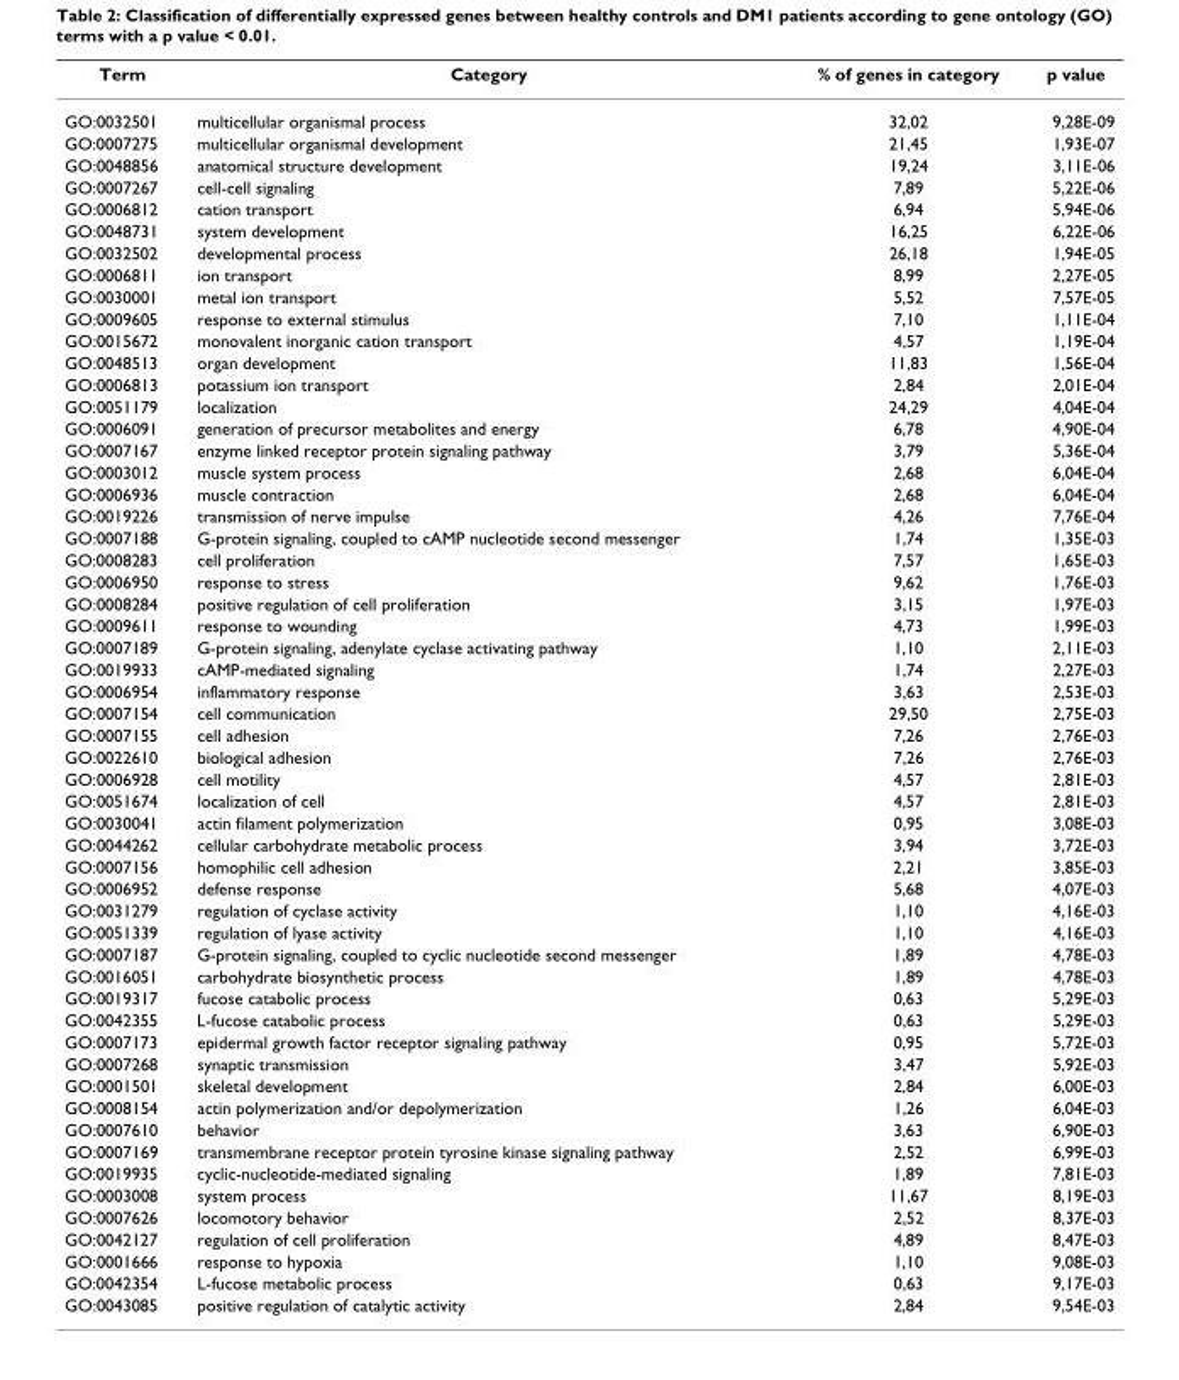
<table><thead><tr><td>Term</td><td>Category</td><td>% of genes in category</td><td>p value</td></tr></thead><tbody><tr><td>GO:0032501</td><td>multicellular organismal process</td><td>32,02</td><td>9,28E-09</td></tr><tr><td>GO:0007275</td><td>multicellular organismal development</td><td>21,45</td><td>1,93E-07</td></tr><tr><td>GO:0048856</td><td>anatomical structure development</td><td>19,24</td><td>3,11E-06</td></tr><tr><td>GO:0007267</td><td>cell-cell signaling</td><td>7,89</td><td>5,22E-06</td></tr><tr><td>GO:0006812</td><td>cation transport</td><td>6,94</td><td>5,94E-06</td></tr><tr><td>GO:0048731</td><td>system development</td><td>16,25</td><td>6,22E-06</td></tr><tr><td>GO:0032502</td><td>developmental process</td><td>26,18</td><td>1,94E-05</td></tr><tr><td>GO:0006811</td><td>ion transport</td><td>8,99</td><td>2,27E-05</td></tr><tr><td>GO:0030001</td><td>metal ion transport</td><td>5,52</td><td>7,57E-05</td></tr><tr><td>GO:0009605</td><td>response to external stimulus</td><td>7,10</td><td>1,11E-04</td></tr><tr><td>GO:0015672</td><td>monovalent inorganic cation transport</td><td>4,57</td><td>1,19E-04</td></tr><tr><td>GO:0048513</td><td>organ development</td><td>11,83</td><td>1,56E-04</td></tr><tr><td>GO:0006813</td><td>potassium ion transport</td><td>2,84</td><td>2,01E-04</td></tr><tr><td>GO:0051179</td><td>localization</td><td>24,29</td><td>4,04E-04</td></tr><tr><td>GO:0006091</td><td>generation of precursor metabolites and energy</td><td>6,78</td><td>4,90E-04</td></tr><tr><td>GO:0007167</td><td>enzyme linked receptor protein signaling pathway</td><td>3,79</td><td>5,36E-04</td></tr><tr><td>GO:0003012</td><td>muscle system process</td><td>2,68</td><td>6,04E-04</td></tr><tr><td>GO:0006936</td><td>muscle contraction</td><td>2,68</td><td>6,04E-04</td></tr><tr><td>GO:0019226</td><td>transmission of nerve impulse</td><td>4,26</td><td>7,76E-04</td></tr><tr><td>GO:0007188</td><td>G-protein signaling, coupled to cAMP nucleotide second messenger</td><td>1,74</td><td>1,35E-03</td></tr><tr><td>GO:0008283</td><td>cell proliferation</td><td>7,57</td><td>1,65E-03</td></tr><tr><td>GO:0006950</td><td>response to stress</td><td>9,62</td><td>1,76E-03</td></tr><tr><td>GO:0008284</td><td>positive regulation of cell proliferation</td><td>3,15</td><td>1,97E-03</td></tr><tr><td>GO:0009611</td><td>response to wounding</td><td>4,73</td><td>1,99E-03</td></tr><tr><td>GO:0007189</td><td>G-protein signaling, adenylate cyclase activating pathway</td><td>1,10</td><td>2,11E-03</td></tr><tr><td>GO:0019933</td><td>cAMP-mediated signaling</td><td>1,74</td><td>2,27E-03</td></tr><tr><td>GO:0006954</td><td>inflammatory response</td><td>3,63</td><td>2,53E-03</td></tr><tr><td>GO:0007154</td><td>cell communication</td><td>29,50</td><td>2,75E-03</td></tr><tr><td>GO:0007155</td><td>cell adhesion</td><td>7,26</td><td>2,76E-03</td></tr><tr><td>GO:0022610</td><td>biological adhesion</td><td>7,26</td><td>2,76E-03</td></tr><tr><td>GO:0006928</td><td>cell motility</td><td>4,57</td><td>2,81E-03</td></tr><tr><td>GO:0051674</td><td>localization of cell</td><td>4,57</td><td>2,81E-03</td></tr><tr><td>GO:0030041</td><td>actin filament polymerization</td><td>0,95</td><td>3,08E-03</td></tr><tr><td>GO:0044262</td><td>cellular carbohydrate metabolic process</td><td>3,94</td><td>3,72E-03</td></tr><tr><td>GO:0007156</td><td>homophilic cell adhesion</td><td>2,21</td><td>3,85E-03</td></tr><tr><td>GO:0006952</td><td>defense response</td><td>5,68</td><td>4,07E-03</td></tr><tr><td>GO:0031279</td><td>regulation of cyclase activity</td><td>1,10</td><td>4,16E-03</td></tr><tr><td>GO:0051339</td><td>regulation of lyase activity</td><td>1,10</td><td>4,16E-03</td></tr><tr><td>GO:0007187</td><td>G-protein signaling, coupled to cyclic nucleotide second messenger</td><td>1,89</td><td>4,78E-03</td></tr><tr><td>GO:0016051</td><td>carbohydrate biosynthetic process</td><td>1,89</td><td>4,78E-03</td></tr><tr><td>GO:0019317</td><td>fucose catabolic process</td><td>0,63</td><td>5,29E-03</td></tr><tr><td>GO:0042355</td><td>L-fucose catabolic process</td><td>0,63</td><td>5,29E-03</td></tr><tr><td>GO:0007173</td><td>epidermal growth factor receptor signaling pathway</td><td>0,95</td><td>5,72E-03</td></tr><tr><td>GO:0007268</td><td>synaptic transmission</td><td>3,47</td><td>5,92E-03</td></tr><tr><td>GO:0001501</td><td>skeletal development</td><td>2,84</td><td>6,00E-03</td></tr><tr><td>GO:0008154</td><td>actin polymerization and/or depolymerization</td><td>1,26</td><td>6,04E-03</td></tr><tr><td>GO:0007610</td><td>behavior</td><td>3,63</td><td>6,90E-03</td></tr><tr><td>GO:0007169</td><td>transmembrane receptor protein tyrosine kinase signaling pathway</td><td>2,52</td><td>6,99E-03</td></tr><tr><td>GO:0019935</td><td>cyclic-nucleotide-mediated signaling</td><td>1,89</td><td>7,81E-03</td></tr><tr><td>GO:0003008</td><td>system process</td><td>11,67</td><td>8,19E-03</td></tr><tr><td>GO:0007626</td><td>locomotory behavior</td><td>2,52</td><td>8,37E-03</td></tr><tr><td>GO:0042127</td><td>regulation of cell proliferation</td><td>4,89</td><td>8,47E-03</td></tr><tr><td>GO:0001666</td><td>response to hypoxia</td><td>1,10</td><td>9,08E-03</td></tr><tr><td>GO:0042354</td><td>L-fucose metabolic process</td><td>0,63</td><td>9,17E-03</td></tr><tr><td>GO:0043085</td><td>positive regulation of catalytic activity</td><td>2,84</td><td>9,54E-03</td></tr></tbody></table>